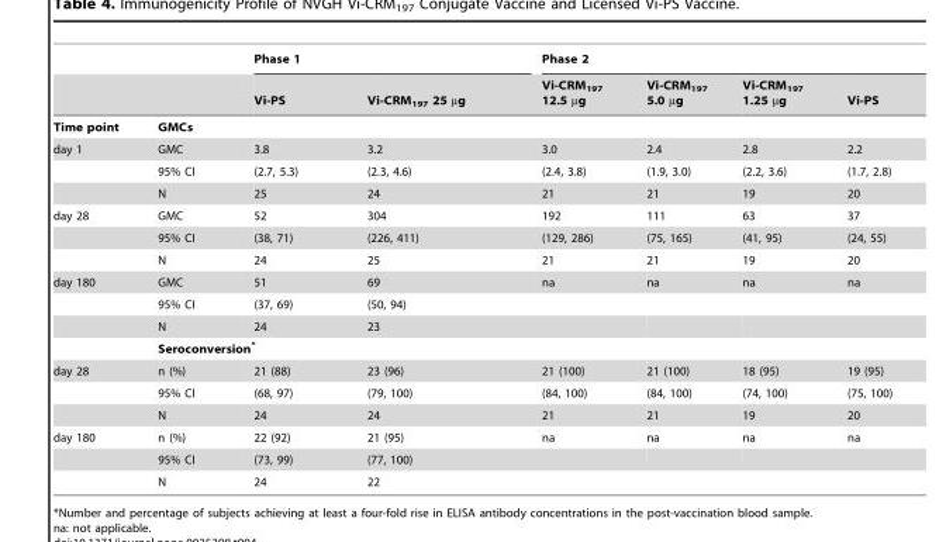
<table><thead><tr><td rowspan="2"></td><td rowspan="2"></td><td colspan="2">Phase 1</td><td colspan="4">Phase 2</td></tr><tr><td>Vi-PS</td><td>Vi-CRM<sub>197</sub> 25 µg</td><td>Vi-CRM<sub>197</sub> 12.5 µg</td><td>Vi-CRM<sub>197</sub> 5.0 µg</td><td>Vi-CRM<sub>197</sub> 1.25 µg</td><td>Vi-PS</td></tr></thead><tbody><tr><td>Time point</td><td colspan="7">GMCs</td></tr><tr><td rowspan="3">day 1</td><td>GMC</td><td>3.8</td><td>3.2</td><td>3.0</td><td>2.4</td><td>2.8</td><td>2.2</td></tr><tr><td>95% CI</td><td>(2.7, 5.3)</td><td>(2.3, 4.6)</td><td>(2.4, 3.8)</td><td>(1.9, 3.0)</td><td>(2.2, 3.6)</td><td>(1.7, 2.8)</td></tr><tr><td>N</td><td>25</td><td>24</td><td>21</td><td>21</td><td>19</td><td>20</td></tr><tr><td rowspan="3">day 28</td><td>GMC</td><td>52</td><td>304</td><td>192</td><td>111</td><td>63</td><td>37</td></tr><tr><td>95% CI</td><td>(38, 71)</td><td>(226, 411)</td><td>(129, 286)</td><td>(75, 165)</td><td>(41, 95)</td><td>(24, 55)</td></tr><tr><td>N</td><td>24</td><td>25</td><td>21</td><td>21</td><td>19</td><td>20</td></tr><tr><td rowspan="4">day 180</td><td>GMC</td><td>51</td><td>69</td><td>na</td><td>na</td><td>na</td><td>na</td></tr><tr><td>95% CI</td><td>(37, 69)</td><td>(50, 94)</td><td></td><td></td><td></td><td></td></tr><tr><td>N</td><td>24</td><td>23</td><td></td><td></td><td></td><td></td></tr><tr><td colspan="7">Seroconversion*</td></tr><tr><td rowspan="3">day 28</td><td>n (%)</td><td>21 (88)</td><td>23 (96)</td><td>21 (100)</td><td>21 (100)</td><td>18 (95)</td><td>19 (95)</td></tr><tr><td>95% CI</td><td>(68, 97)</td><td>(79, 100)</td><td>(84, 100)</td><td>(84, 100)</td><td>(74, 100)</td><td>(75, 100)</td></tr><tr><td>N</td><td>24</td><td>24</td><td>21</td><td>21</td><td>19</td><td>20</td></tr><tr><td rowspan="3">day 180</td><td>n (%)</td><td>22 (92)</td><td>21 (95)</td><td>na</td><td>na</td><td>na</td><td>na</td></tr><tr><td>95% CI</td><td>(73, 99)</td><td>(77, 100)</td><td></td><td></td><td></td><td></td></tr><tr><td>N</td><td>24</td><td>22</td><td></td><td></td><td></td><td></td></tr></tbody></table>